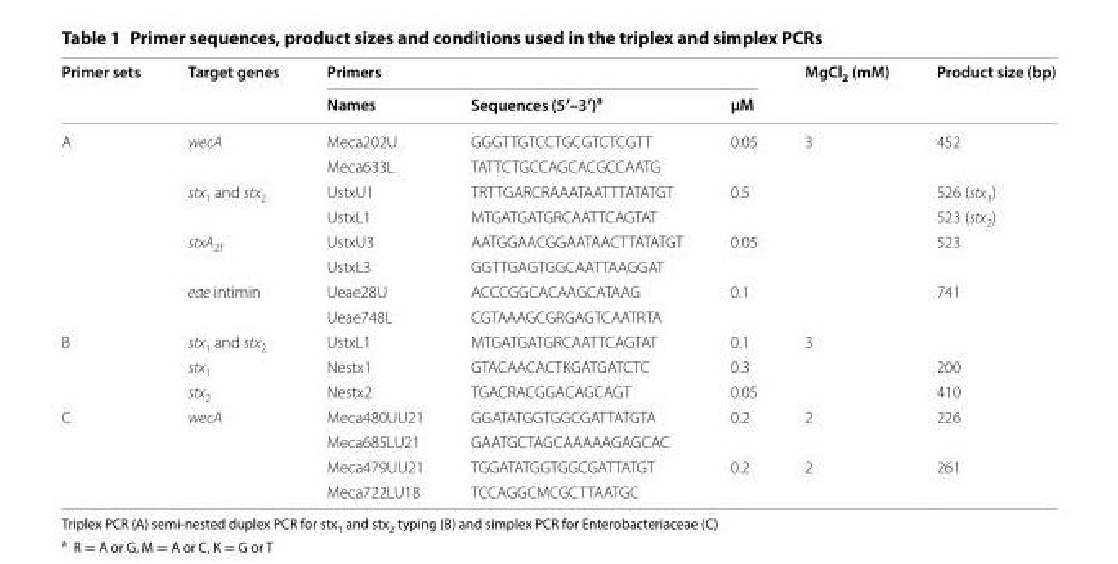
<table><thead><tr><td rowspan="2">Primer sets</td><td rowspan="2">Target genes</td><td colspan="3">Primers</td><td rowspan="2">MgCl<sub>2</sub> (mM)</td><td rowspan="2">Product size (bp)</td></tr><tr><td>Names</td><td>Sequences (5′–3′)<sup>a</sup></td><td>μM</td></tr></thead><tbody><tr><td rowspan="8">A</td><td rowspan="2">wecA</td><td>Meca202U</td><td>GGG TTG TCC TGC GTC TCG TT</td><td rowspan="2">0.05</td><td rowspan="8">3</td><td rowspan="2">452</td></tr><tr><td>Meca633L</td><td>TAT TCT GCC AGC ACG CCA ATG</td></tr><tr><td rowspan="2">stx<sub>1</sub> and stx<sub>2</sub></td><td>UstxU1</td><td>TRT TGA RCR AAA TAA TTT ATA TGT</td><td rowspan="2">0.5</td><td>526 (stx<sub>1</sub>)</td></tr><tr><td>UstxL1</td><td>MTGA TGA TGR CAA TTC AGT AT</td><td>523 (stx<sub>2</sub>)</td></tr><tr><td rowspan="2">stxA<sub>2f</sub></td><td>UstxU3</td><td>AAT GGA ACG GAA TAA CTT ATA TGT</td><td rowspan="2">0.05</td><td rowspan="2">523</td></tr><tr><td>UstxL3</td><td>GGT TGA GTG GCA ATT AAG GAT</td></tr><tr><td rowspan="2">eae intimin</td><td>Ueae28U</td><td>ACC CGG CAC AAG CAT AAG</td><td rowspan="2">0.1</td><td rowspan="2">741</td></tr><tr><td>Ueae748L</td><td>CGT AAA GCG RGA GTC AAT RTA</td></tr><tr><td rowspan="3">B</td><td>stx<sub>1</sub> and stx<sub>2</sub></td><td>UstxL1</td><td>MTGA TGA TGR CAA TTC AGT AT</td><td>0.1</td><td rowspan="3">3</td><td></td></tr><tr><td>stx<sub>1</sub></td><td>Nestx1</td><td>GTA CAA CACTKGAT GAT CTC</td><td>0.3</td><td>200</td></tr><tr><td>stx<sub>2</sub></td><td>Nestx2</td><td>TGA CRA CGG ACA GCAGT</td><td>0.05</td><td>410</td></tr><tr><td rowspan="4">C</td><td rowspan="4">wecA</td><td>Meca480UU21</td><td>GGA TAT GGT GGC GAT TAT GTA</td><td rowspan="2">0.2</td><td rowspan="2">2</td><td rowspan="2">226</td></tr><tr><td>Meca685LU21</td><td>GAA TGC TAG CAA AAA GAG CAC</td></tr><tr><td>Meca479UU21</td><td>TGG ATA TGG TGG CGA TTA TGT</td><td rowspan="2">0.2</td><td rowspan="2">2</td><td rowspan="2">261</td></tr><tr><td>Meca722LU18</td><td>TCC AGG CMCGC TTA ATGC</td></tr></tbody></table>